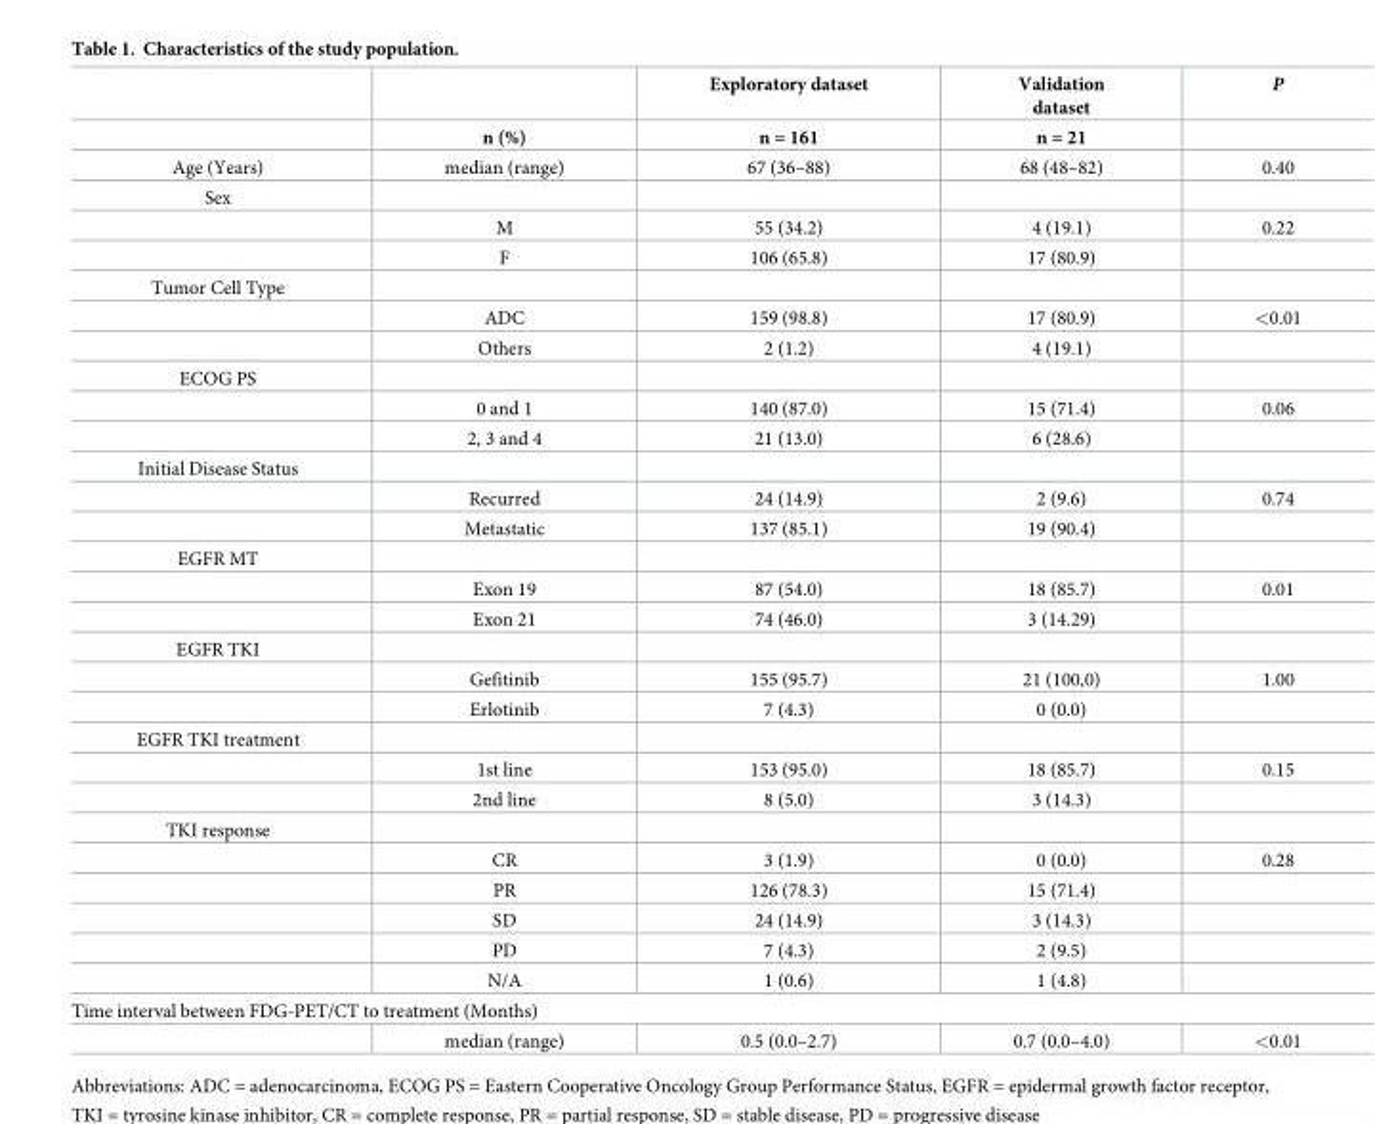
<table><thead><tr><td rowspan="2"></td><td rowspan="2">n (%)</td><td rowspan="2">Exploratory dataset n = 161</td><td rowspan="2">Validation dataset n = 21</td><td rowspan="2">P</td></tr><tr></tr></thead><tbody><tr><td>Age (Years)</td><td>median (range)</td><td>67 (36–88)</td><td>68 (48–82)</td><td>0.40</td></tr><tr><td colspan="5">Sex</td></tr><tr><td></td><td>M</td><td>55 (34.2)</td><td>4 (19.1)</td><td>0.22</td></tr><tr><td></td><td>F</td><td>106 (65.8)</td><td>17 (80.9)</td><td></td></tr><tr><td colspan="5">Tumor Cell Type</td></tr><tr><td></td><td>ADC</td><td>159 (98.8)</td><td>17 (80.9)</td><td>&lt;0.01</td></tr><tr><td></td><td>Others</td><td>2 (1.2)</td><td>4 (19.1)</td><td></td></tr><tr><td colspan="5">ECOG PS</td></tr><tr><td></td><td>0 and 1</td><td>140 (87.0)</td><td>15 (71.4)</td><td>0.06</td></tr><tr><td></td><td>2, 3 and 4</td><td>21 (13.0)</td><td>6 (28.6)</td><td></td></tr><tr><td colspan="5">Initial Disease Status</td></tr><tr><td></td><td>Recurred</td><td>24 (14.9)</td><td>2 (9.6)</td><td>0.74</td></tr><tr><td></td><td>Metastatic</td><td>137 (85.1)</td><td>19 (90.4)</td><td></td></tr><tr><td colspan="5">EGFR MT</td></tr><tr><td></td><td>Exon 19</td><td>87 (54.0)</td><td>18 (85.7)</td><td>0.01</td></tr><tr><td></td><td>Exon 21</td><td>74 (46.0)</td><td>3 (14.29)</td><td></td></tr><tr><td colspan="5">EGFR TKI</td></tr><tr><td></td><td>Gefitinib</td><td>155 (95.7)</td><td>21 (100,0)</td><td>1.00</td></tr><tr><td></td><td>Erlotinib</td><td>7 (4.3)</td><td>0 (0.0)</td><td></td></tr><tr><td colspan="5">EGFR TKI treatment</td></tr><tr><td></td><td>1st line</td><td>153 (95.0)</td><td>18 (85.7)</td><td>0.15</td></tr><tr><td></td><td>2nd line</td><td>8 (5.0)</td><td>3 (14.3)</td><td></td></tr><tr><td colspan="5">TKI response</td></tr><tr><td></td><td>CR</td><td>3 (1.9)</td><td>0 (0.0)</td><td>0.28</td></tr><tr><td></td><td>PR</td><td>126 (78.3)</td><td>15 (71.4)</td><td></td></tr><tr><td></td><td>SD</td><td>24 (14.9)</td><td>3 (14.3)</td><td></td></tr><tr><td></td><td>PD</td><td>7 (4.3)</td><td>2 (9.5)</td><td></td></tr><tr><td></td><td>N/A</td><td>1 (0.6)</td><td>1 (4.8)</td><td></td></tr><tr><td colspan="5">Time interval between FDG-PET/CT to treatment (Months)</td></tr><tr><td></td><td>median (range)</td><td>0.5 (0.0–2.7)</td><td>0.7 (0.0–4.0)</td><td>&lt;0.01</td></tr></tbody></table>